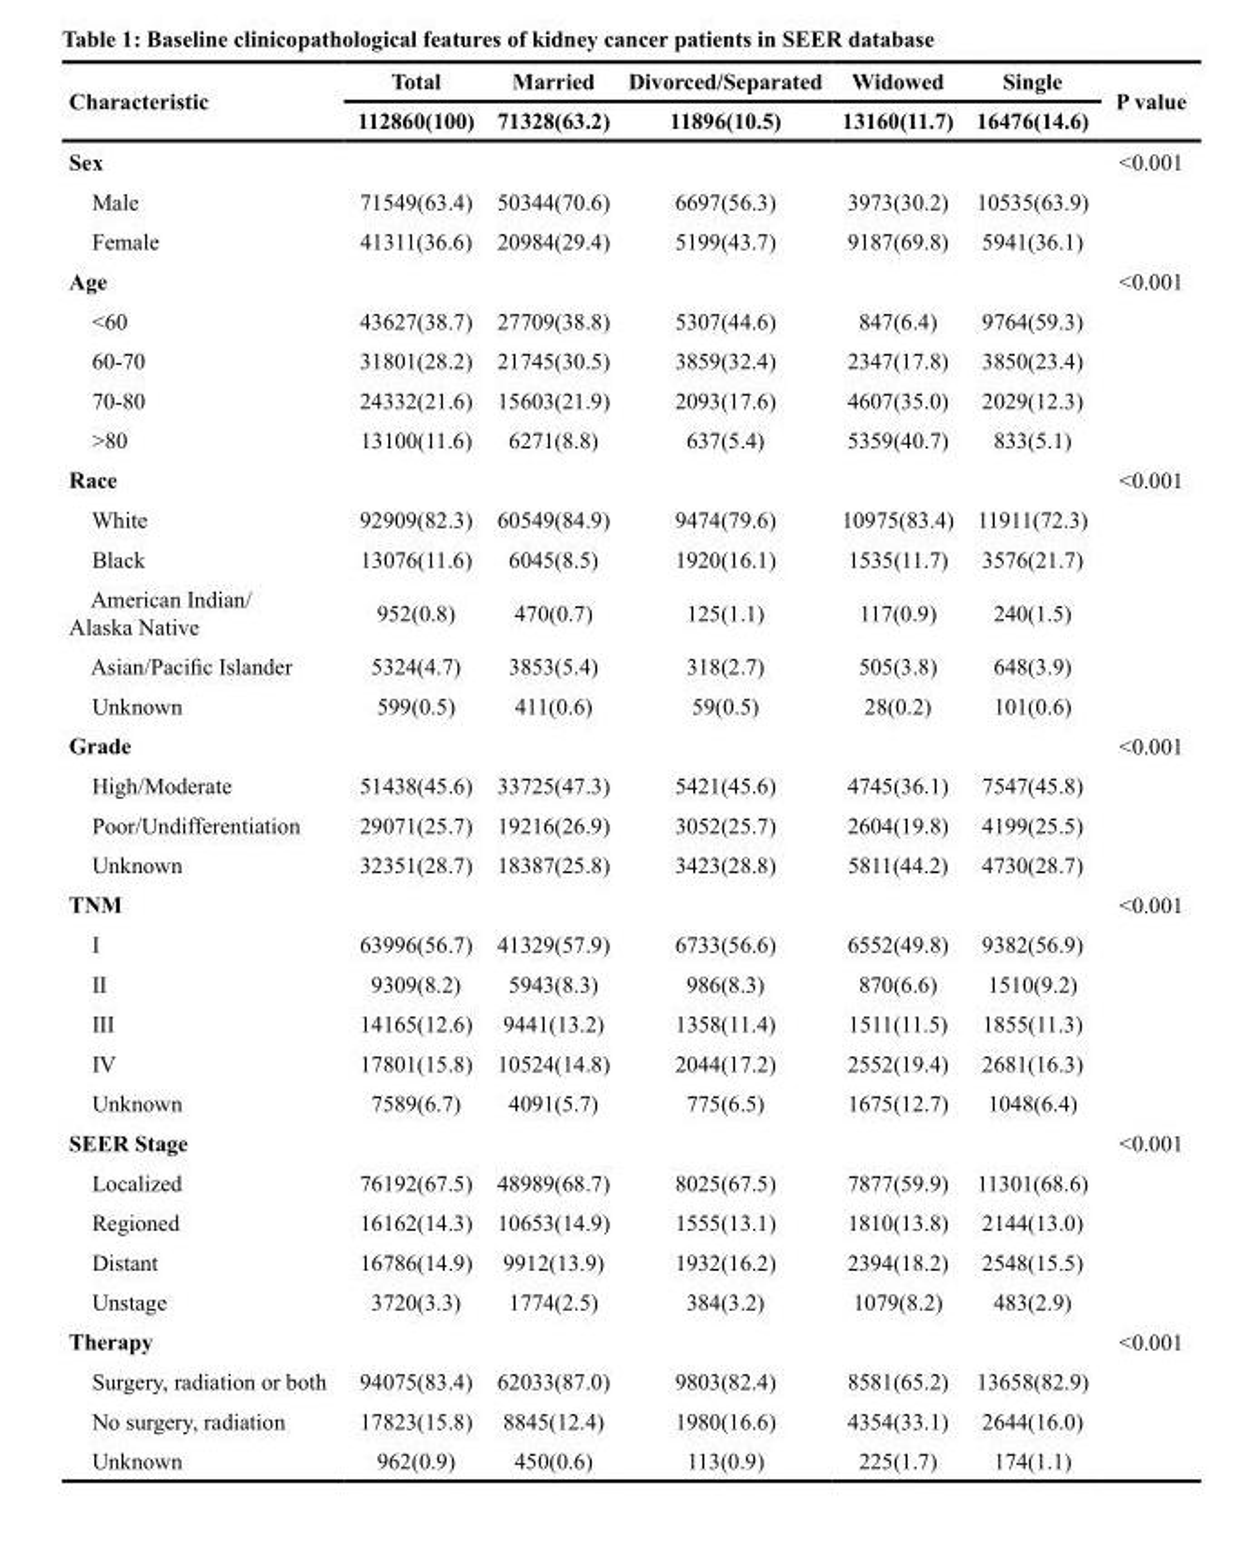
<table><thead><tr><td rowspan="2">Characteristic</td><td rowspan="2">Total 112860(100)</td><td rowspan="2">Married 71328(63.2)</td><td rowspan="2">Divorced/Separated 11896(10.5)</td><td rowspan="2">Widowed 13160(11.7)</td><td rowspan="2">Single 16476(14.6)</td><td rowspan="2">P value</td></tr><tr></tr></thead><tbody><tr><td>Sex</td><td></td><td></td><td></td><td></td><td></td><td>&lt;0.001</td></tr><tr><td>Male</td><td>71549(63.4)</td><td>50344(70.6)</td><td>6697(56.3)</td><td>3973(30.2)</td><td>10535(63.9)</td><td></td></tr><tr><td>Female</td><td>41311(36.6)</td><td>20984(29.4)</td><td>5199(43.7)</td><td>9187(69.8)</td><td>5941(36.1)</td><td></td></tr><tr><td>Age</td><td></td><td></td><td></td><td></td><td></td><td>&lt;0.001</td></tr><tr><td>&lt;60</td><td>43627(38.7)</td><td>27709(38.8)</td><td>5307(44.6)</td><td>847(6.4)</td><td>9764(59.3)</td><td></td></tr><tr><td>60-70</td><td>31801(28.2)</td><td>21745(30.5)</td><td>3859(32.4)</td><td>2347(17.8)</td><td>3850(23.4)</td><td></td></tr><tr><td>70-80</td><td>24332(21.6)</td><td>15603(21.9)</td><td>2093(17.6)</td><td>4607(35.0)</td><td>2029(12.3)</td><td></td></tr><tr><td>&gt;80</td><td>13100(11.6)</td><td>6271(8.8)</td><td>637(5.4)</td><td>5359(40.7)</td><td>833(5.1)</td><td></td></tr><tr><td>Race</td><td></td><td></td><td></td><td></td><td></td><td>&lt;0.001</td></tr><tr><td>White</td><td>92909(82.3)</td><td>60549(84.9)</td><td>9474(79.6)</td><td>10975(83.4)</td><td>11911(72.3)</td><td></td></tr><tr><td>Black</td><td>13076(11.6)</td><td>6045(8.5)</td><td>1920(16.1)</td><td>1535(11.7)</td><td>3576(21.7)</td><td></td></tr><tr><td>American Indian/ Alaska Native</td><td>952(0.8)</td><td>470(0.7)</td><td>125(1.1)</td><td>117(0.9)</td><td>240(1.5)</td><td></td></tr><tr><td>Asian/Pacific Islander</td><td>5324(4.7)</td><td>3853(5.4)</td><td>318(2.7)</td><td>505(3.8)</td><td>648(3.9)</td><td></td></tr><tr><td>Unknown</td><td>599(0.5)</td><td>411(0.6)</td><td>59(0.5)</td><td>28(0.2)</td><td>101(0.6)</td><td></td></tr><tr><td>Grade</td><td></td><td></td><td></td><td></td><td></td><td>&lt;0.001</td></tr><tr><td>High/Moderate</td><td>51438(45.6)</td><td>33725(47.3)</td><td>5421(45.6)</td><td>4745(36.1)</td><td>7547(45.8)</td><td></td></tr><tr><td>Poor/Undifferentiation</td><td>29071(25.7)</td><td>19216(26.9)</td><td>3052(25.7)</td><td>2604(19.8)</td><td>4199(25.5)</td><td></td></tr><tr><td>Unknown</td><td>32351(28.7)</td><td>18387(25.8)</td><td>3423(28.8)</td><td>5811(44.2)</td><td>4730(28.7)</td><td></td></tr><tr><td>TNM</td><td></td><td></td><td></td><td></td><td></td><td>&lt;0.001</td></tr><tr><td>I</td><td>63996(56.7)</td><td>41329(57.9)</td><td>6733(56.6)</td><td>6552(49.8)</td><td>9382(56.9)</td><td></td></tr><tr><td>II</td><td>9309(8.2)</td><td>5943(8.3)</td><td>986(8.3)</td><td>870(6.6)</td><td>1510(9.2)</td><td></td></tr><tr><td>III</td><td>14165(12.6)</td><td>9441(13.2)</td><td>1358(11.4)</td><td>1511(11.5)</td><td>1855(11.3)</td><td></td></tr><tr><td>IV</td><td>17801(15.8)</td><td>10524(14.8)</td><td>2044(17.2)</td><td>2552(19.4)</td><td>2681(16.3)</td><td></td></tr><tr><td>Unknown</td><td>7589(6.7)</td><td>4091(5.7)</td><td>775(6.5)</td><td>1675(12.7)</td><td>1048(6.4)</td><td></td></tr><tr><td>SEER Stage</td><td></td><td></td><td></td><td></td><td></td><td>&lt;0.001</td></tr><tr><td>Localized</td><td>76192(67.5)</td><td>48989(68.7)</td><td>8025(67.5)</td><td>7877(59.9)</td><td>11301(68.6)</td><td></td></tr><tr><td>Regioned</td><td>16162(14.3)</td><td>10653(14.9)</td><td>1555(13.1)</td><td>1810(13.8)</td><td>2144(13.0)</td><td></td></tr><tr><td>Distant</td><td>16786(14.9)</td><td>9912(13.9)</td><td>1932(16.2)</td><td>2394(18.2)</td><td>2548(15.5)</td><td></td></tr><tr><td>Unstage</td><td>3720(3.3)</td><td>1774(2.5)</td><td>384(3.2)</td><td>1079(8.2)</td><td>483(2.9)</td><td></td></tr><tr><td>Therapy</td><td></td><td></td><td></td><td></td><td></td><td>&lt;0.001</td></tr><tr><td>Surgery, radiation or both</td><td>94075(83.4)</td><td>62033(87.0)</td><td>9803(82.4)</td><td>8581(65.2)</td><td>13658(82.9)</td><td></td></tr><tr><td>No surgery, radiation</td><td>17823(15.8)</td><td>8845(12.4)</td><td>1980(16.6)</td><td>4354(33.1)</td><td>2644(16.0)</td><td></td></tr><tr><td>Unknown</td><td>962(0.9)</td><td>450(0.6)</td><td>113(0.9)</td><td>225(1.7)</td><td>174(1.1)</td><td></td></tr></tbody></table>